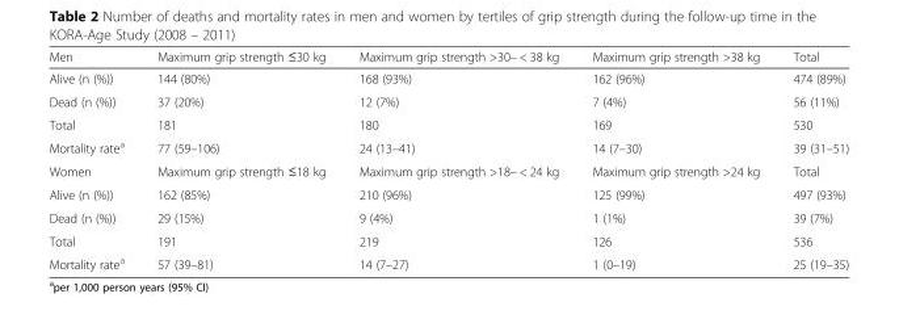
<table><thead><tr><td>Men</td><td>Maximum grip strength ≤30 kg</td><td>Maximum grip strength &gt;30– &lt; 38 kg</td><td>Maximum grip strength &gt;38 kg</td><td>Total</td></tr></thead><tbody><tr><td>Alive (n (%))</td><td>144 (80%)</td><td>168 (93%)</td><td>162 (96%)</td><td>474 (89%)</td></tr><tr><td>Dead (n (%))</td><td>37 (20%)</td><td>12 (7%)</td><td>7 (4%)</td><td>56 (11%)</td></tr><tr><td>Total</td><td>181</td><td>180</td><td>169</td><td>530</td></tr><tr><td>Mortality rate<sup>a</sup></td><td>77 (59–106)</td><td>24 (13–41)</td><td>14 (7–30)</td><td>39 (31–51)</td></tr><tr><td>Women</td><td>Maximum grip strength ≤18 kg</td><td>Maximum grip strength &gt;18– &lt; 24 kg</td><td>Maximum grip strength &gt;24 kg</td><td>Total</td></tr><tr><td>Alive (n (%))</td><td>162 (85%)</td><td>210 (96%)</td><td>125 (99%)</td><td>497 (93%)</td></tr><tr><td>Dead (n (%))</td><td>29 (15%)</td><td>9 (4%)</td><td>1 (1%)</td><td>39 (7%)</td></tr><tr><td>Total</td><td>191</td><td>219</td><td>126</td><td>536</td></tr><tr><td>Mortality rate<sup>a</sup></td><td>57 (39–81)</td><td>14 (7–27)</td><td>1 (0–19)</td><td>25 (19–35)</td></tr></tbody></table>